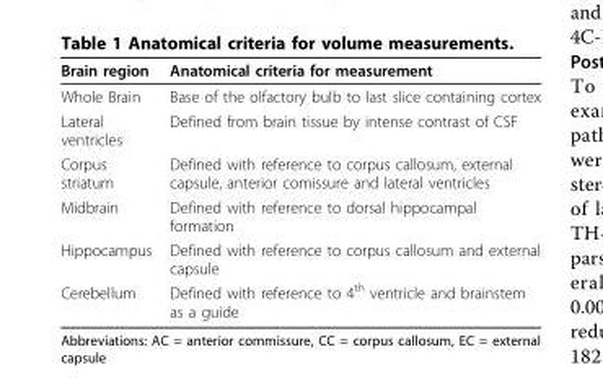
<table><thead><tr><td>Brain region</td><td>Anatomical criteria for measurement</td></tr></thead><tbody><tr><td>Whole Brain</td><td>Base of the olfactory bulb to last slice containing cortex</td></tr><tr><td>Lateral ventricles</td><td>Defined from brain tissue by intense contrast of CSF</td></tr><tr><td>Corpus striatum</td><td>Defined with reference to corpus callosum, external capsule, anterior comissure and lateral ventricles</td></tr><tr><td>Midbrain</td><td>Defined with reference to dorsal hippocampal formation</td></tr><tr><td>Hippocampus</td><td>Defined with reference to corpus callosum and external capsule</td></tr><tr><td>Cerebellum</td><td>Defined with reference to 4<sup>th</sup> ventricle and brainstem as a guide</td></tr></tbody></table>